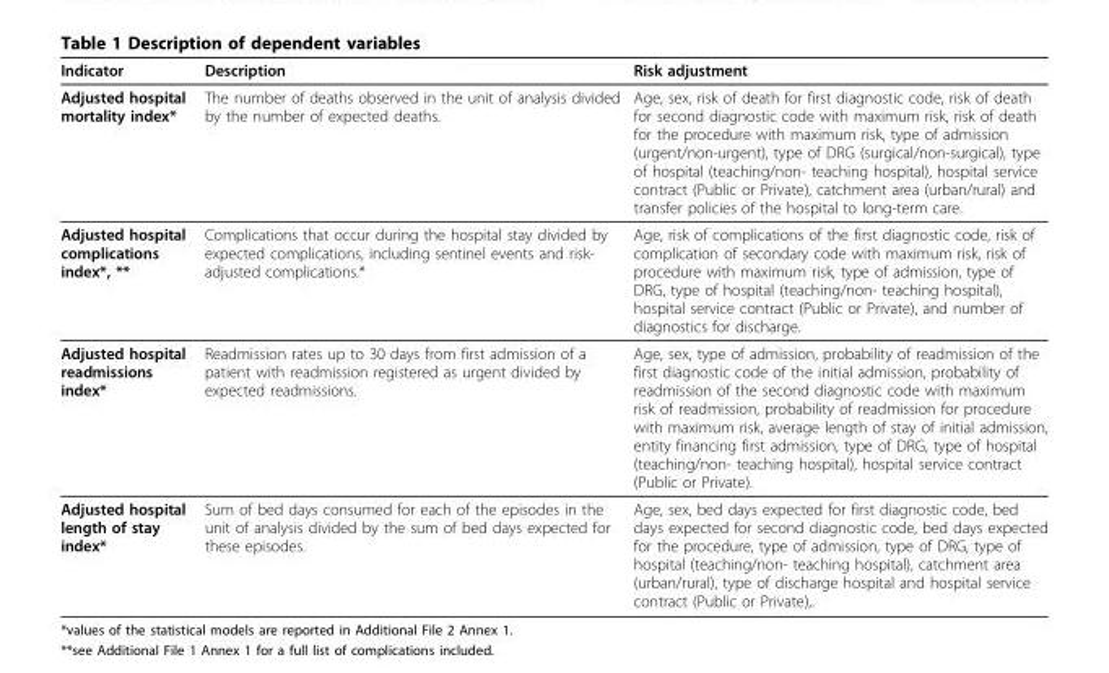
<table><thead><tr><td>Indicator</td><td>Description</td><td>Risk adjustment</td></tr></thead><tbody><tr><td>Adjusted hospital mortality index*</td><td>The number of deaths observed in the unit of analysis divided by the number of expected deaths.</td><td>Age, sex, risk of death for first diagnostic code, risk of death for second diagnostic code with maximum risk, risk of death for the procedure with maximum risk, type of admission (urgent/non-urgent), type of DRG (surgical/non-surgical), type of hospital (teaching/non- teaching hospital), hospital service contract (Public or Private), catchment area (urban/rural) and transfer policies of the hospital to long-term care.</td></tr><tr><td>Adjusted hospital complications index*, **</td><td>Complications that occur during the hospital stay divided by expected complications, including sentinel events and risk- adjusted complications.*</td><td>Age, risk of complications of the first diagnostic code, risk of complication of secondary code with maximum risk, risk of procedure with maximum risk, type of admission, type of DRG, type of hospital (teaching/non- teaching hospital), hospital service contract (Public or Private), and number of diagnostics for discharge.</td></tr><tr><td>Adjusted hospital readmissions index*</td><td>Readmission rates up to 30 days from first admission of a patient with readmission registered as urgent divided by expected readmissions.</td><td>Age, sex, type of admission, probability of readmission of the first diagnostic code of the initial admission, probability of readmission of the second diagnostic code with maximum risk of readmission, probability of readmission for procedure with maximum risk, average length of stay of initial admission, entity financing first admission, type of DRG, type of hospital (teaching/non- teaching hospital), hospital service contract (Public or Private).</td></tr><tr><td>Adjusted hospital length of stay index*</td><td>Sum of bed days consumed for each of the episodes in the unit of analysis divided by the sum of bed days expected for these episodes.</td><td>Age, sex, bed days expected for first diagnostic code, bed days expected for second diagnostic code, bed days expected for the procedure, type of admission, type of DRG, type of hospital (teaching/non- teaching hospital), catchment area (urban/rural), type of discharge hospital and hospital service contract (Public or Private),.</td></tr></tbody></table>